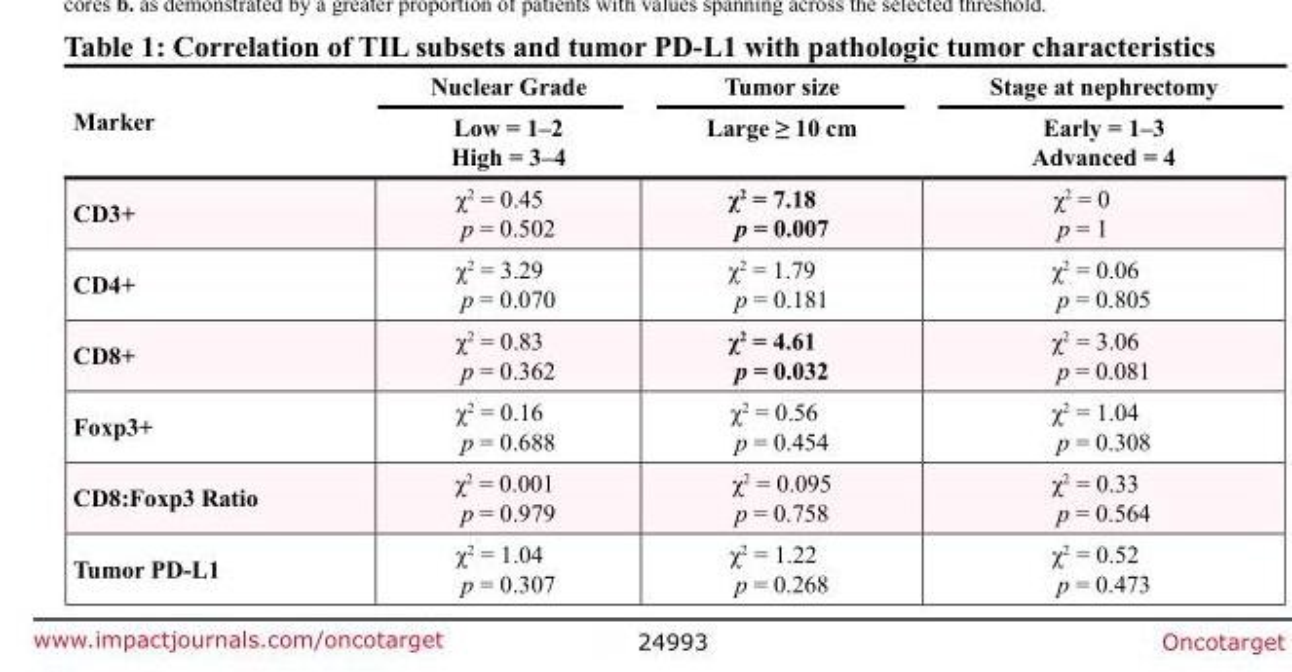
<table><thead><tr><td rowspan="2">Marker</td><td rowspan="2">Nuclear Grade Low = 1–2 High = 3–4</td><td rowspan="2">Tumor size Large ≥ 10 cm</td><td rowspan="2">Stage at nephrectomy Early = 1–3 Advanced = 4</td></tr><tr></tr></thead><tbody><tr><td>CD3+</td><td>χ<sup>2</sup> = 0.45 p = 0.502</td><td>χ<sup>2</sup> = 7.18 p = 0.007</td><td>χ<sup>2</sup> = 0 p = 1</td></tr><tr><td>CD4+</td><td>χ<sup>2</sup> = 3.29 p = 0.070</td><td>χ<sup>2</sup> = 1.79 p = 0.181</td><td>χ<sup>2</sup> = 0.06 p = 0.805</td></tr><tr><td>CD8+</td><td>χ<sup>2</sup> = 0.83 p = 0.362</td><td>χ<sup>2</sup> = 4.61 p = 0.032</td><td>χ<sup>2</sup> = 3.06 p = 0.081</td></tr><tr><td>Foxp3+</td><td>χ<sup>2</sup> = 0.16 p = 0.688</td><td>χ<sup>2</sup> = 0.56 p = 0.454</td><td>χ<sup>2</sup> = 1.04 p = 0.308</td></tr><tr><td>CD8:Foxp3 Ratio</td><td>χ<sup>2</sup> = 0.001 p = 0.979</td><td>χ<sup>2</sup> = 0.095 p = 0.758</td><td>χ<sup>2</sup> = 0.33 p = 0.564</td></tr><tr><td>Tumor PD-L1</td><td>χ<sup>2</sup> = 1.04 p = 0.307</td><td>χ<sup>2</sup> = 1.22 p = 0.268</td><td>χ<sup>2</sup> = 0.52 p = 0.473</td></tr></tbody></table>